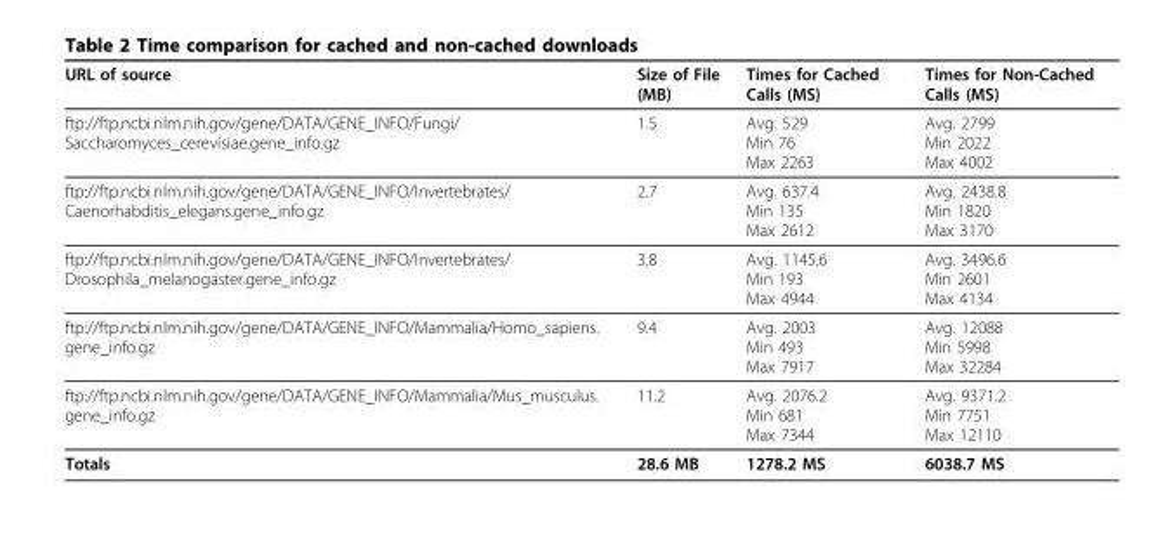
<table><thead><tr><td>URL of source</td><td>Size of File (MB)</td><td>Times for Cached Calls (MS)</td><td>Times for Non-Cached Calls (MS)</td></tr></thead><tbody><tr><td>ftp://ftp.ncbi.nlm.nih.gov/gene/DATA/GENE_INFO/Fungi/ Saccharomyces_cerevisiae.gene_info.gz</td><td>1.5</td><td>Avg. 529 Min 76 Max 2263</td><td>Avg. 2799 Min 2022 Max 4002</td></tr><tr><td>ftp://ftp.ncbi.nlm.nih.gov/gene/DATA/GENE_INFO/Invertebrates/ Caenorhabditis_elegans.gene_info.gz</td><td>2.7</td><td>Avg. 637.4 Min 135 Max 2612</td><td>Avg. 2438.8 Min 1820 Max 3170</td></tr><tr><td>ftp://ftp.ncbi.nlm.nih.gov/gene/DATA/GENE_INFO/Invertebrates/ Drosophila_melanogaster.gene_info.gz</td><td>3.8</td><td>Avg. 1145.6 Min 193 Max 4944</td><td>Avg. 3496.6 Min 2601 Max 4134</td></tr><tr><td>ftp://ftp.ncbi.nlm.nih.gov/gene/DATA/GENE_INFO/Mammalia/Homo_sapiens. gene_info.gz</td><td>9.4</td><td>Avg. 2003 Min 493 Max 7917</td><td>Avg. 12088 Min 5998 Max 32284</td></tr><tr><td>ftp://ftp.ncbi.nlm.nih.gov/gene/DATA/GENE_INFO/Mammalia/Mus_musculus. gene_info.gz</td><td>11.2</td><td>Avg. 2076.2 Min 681 Max 7344</td><td>Avg. 9371.2 Min 7751 Max 12110</td></tr><tr><td>Totals</td><td>28.6 MB</td><td>1278.2 MS</td><td>6038.7 MS</td></tr></tbody></table>